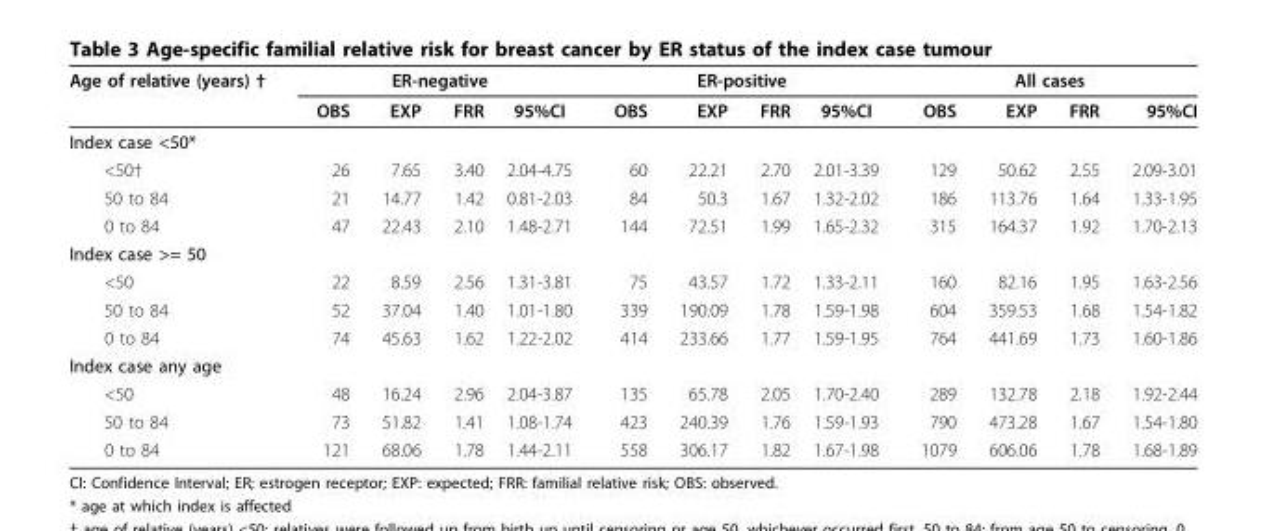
<table><thead><tr><td rowspan="2">Age of relative (years) †</td><td colspan="4">ER-negative</td><td colspan="4">ER-positive</td><td colspan="4">All cases</td></tr><tr><td>OBS</td><td>EXP</td><td>FRR</td><td>95%CI</td><td>OBS</td><td>EXP</td><td>FRR</td><td>95%CI</td><td>OBS</td><td>EXP</td><td>FRR</td><td>95%CI</td></tr></thead><tbody><tr><td colspan="13">Index case &lt;50*</td></tr><tr><td>&lt;50†</td><td>26</td><td>7.65</td><td>3.40</td><td>2.04-4.75</td><td>60</td><td>22.21</td><td>2.70</td><td>2.01-3.39</td><td>129</td><td>50.62</td><td>2.55</td><td>2.09-3.01</td></tr><tr><td>50 to 84</td><td>21</td><td>14.77</td><td>1.42</td><td>0.81-2.03</td><td>84</td><td>50.3</td><td>1.67</td><td>1.32-2.02</td><td>186</td><td>113.76</td><td>1.64</td><td>1.33-1.95</td></tr><tr><td>0 to 84</td><td>47</td><td>22.43</td><td>2.10</td><td>1.48-2.71</td><td>144</td><td>72.51</td><td>1.99</td><td>1.65-2.32</td><td>315</td><td>164.37</td><td>1.92</td><td>1.70-2.13</td></tr><tr><td colspan="13">Index case &gt;= 50</td></tr><tr><td>&lt;50</td><td>22</td><td>8.59</td><td>2.56</td><td>1.31-3.81</td><td>75</td><td>43.57</td><td>1.72</td><td>1.33-2.11</td><td>160</td><td>82.16</td><td>1.95</td><td>1.63-2.56</td></tr><tr><td>50 to 84</td><td>52</td><td>37.04</td><td>1.40</td><td>1.01-1.80</td><td>339</td><td>190.09</td><td>1.78</td><td>1.59-1.98</td><td>604</td><td>359.53</td><td>1.68</td><td>1.54-1.82</td></tr><tr><td>0 to 84</td><td>74</td><td>45.63</td><td>1.62</td><td>1.22-2.02</td><td>414</td><td>233.66</td><td>1.77</td><td>1.59-1.95</td><td>764</td><td>441.69</td><td>1.73</td><td>1.60-1.86</td></tr><tr><td colspan="13">Index case any age</td></tr><tr><td>&lt;50</td><td>48</td><td>16.24</td><td>2.96</td><td>2.04-3.87</td><td>135</td><td>65.78</td><td>2.05</td><td>1.70-2.40</td><td>289</td><td>132.78</td><td>2.18</td><td>1.92-2.44</td></tr><tr><td>50 to 84</td><td>73</td><td>51.82</td><td>1.41</td><td>1.08-1.74</td><td>423</td><td>240.39</td><td>1.76</td><td>1.59-1.93</td><td>790</td><td>473.28</td><td>1.67</td><td>1.54-1.80</td></tr><tr><td>0 to 84</td><td>121</td><td>68.06</td><td>1.78</td><td>1.44-2.11</td><td>558</td><td>306.17</td><td>1.82</td><td>1.67-1.98</td><td>1079</td><td>606.06</td><td>1.78</td><td>1.68-1.89</td></tr></tbody></table>